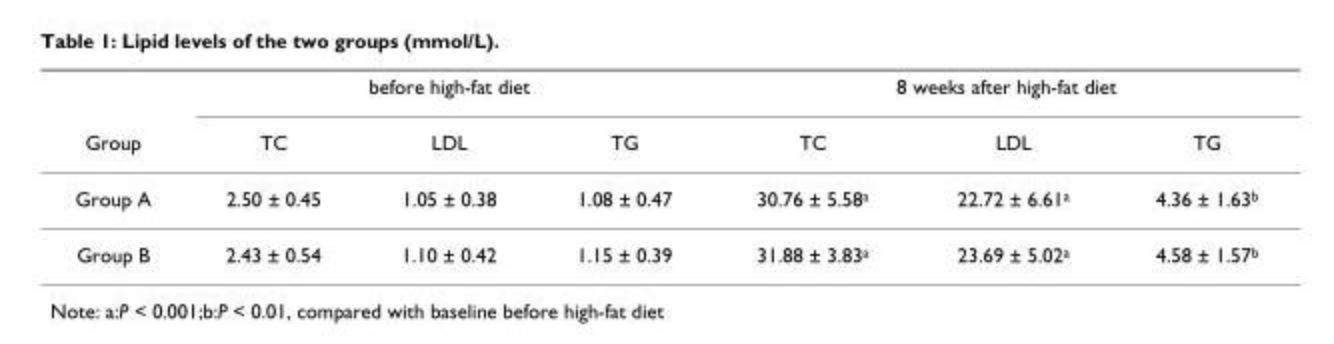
<table><thead><tr><td rowspan="2">Group</td><td colspan="3">before high-fat diet</td><td colspan="3">8 weeks after high-fat diet</td></tr><tr><td>TC</td><td>LDL</td><td>TG</td><td>TC</td><td>LDL</td><td>TG</td></tr></thead><tbody><tr><td>Group A</td><td>2.50 ± 0.45</td><td>1.05 ± 0.38</td><td>1.08 ± 0.47</td><td>30.76 ± 5.58<sup>a</sup></td><td>22.72 ± 6.61<sup>a</sup></td><td>4.36 ± 1.63<sup>b</sup></td></tr><tr><td>Group B</td><td>2.43 ± 0.54</td><td>1.10 ± 0.42</td><td>1.15 ± 0.39</td><td>31.88 ± 3.83<sup>a</sup></td><td>23.69 ± 5.02<sup>a</sup></td><td>4.58 ± 1.57<sup>b</sup></td></tr></tbody></table>